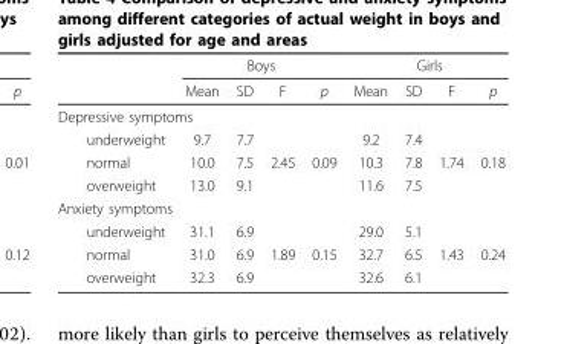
<table><thead><tr><td rowspan="2"></td><td colspan="4">Boys</td><td colspan="4">Girls</td></tr><tr><td>Mean</td><td>SD</td><td>F</td><td>p</td><td>Mean</td><td>SD</td><td>F</td><td>p</td></tr></thead><tbody><tr><td colspan="9">Depressive symptoms</td></tr><tr><td>underweight</td><td>9.7</td><td>7.7</td><td></td><td></td><td>9.2</td><td>7.4</td><td></td><td></td></tr><tr><td>normal</td><td>10.0</td><td>7.5</td><td>2.45</td><td>0.09</td><td>10.3</td><td>7.8</td><td>1.74</td><td>0.18</td></tr><tr><td>overweight</td><td>13.0</td><td>9.1</td><td></td><td></td><td>11.6</td><td>7.5</td><td></td><td></td></tr><tr><td colspan="9">Anxiety symptoms</td></tr><tr><td>underweight</td><td>31.1</td><td>6.9</td><td></td><td></td><td>29.0</td><td>5.1</td><td></td><td></td></tr><tr><td>normal</td><td>31.0</td><td>6.9</td><td>1.89</td><td>0.15</td><td>32.7</td><td>6.5</td><td>1.43</td><td>0.24</td></tr><tr><td>overweight</td><td>32.3</td><td>6.9</td><td></td><td></td><td>32.6</td><td>6.1</td><td></td><td></td></tr></tbody></table>